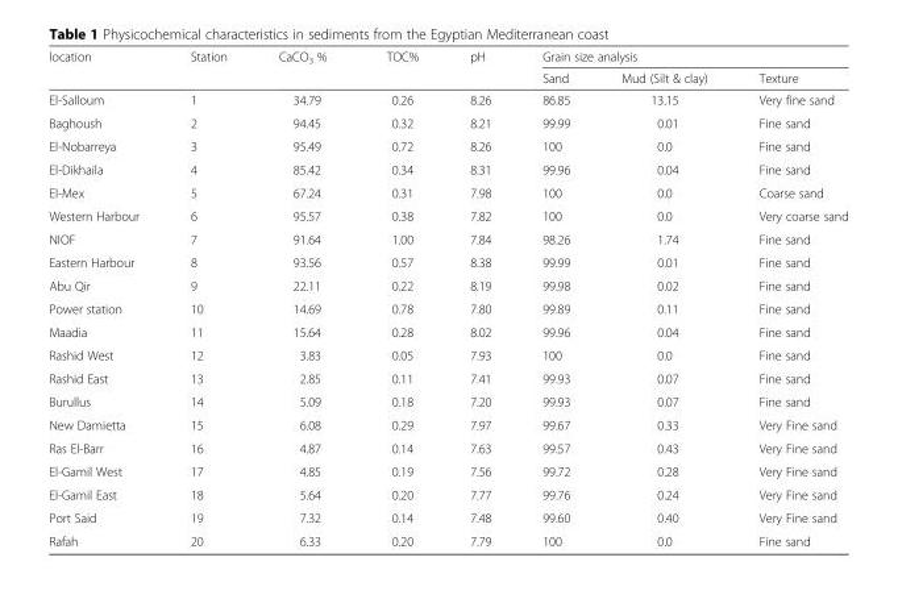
<table><thead><tr><td rowspan="2">location</td><td rowspan="2">Station</td><td rowspan="2">CaCO<sub>3</sub> %</td><td rowspan="2">TOC%</td><td rowspan="2">pH</td><td colspan="3">Grain size analysis</td></tr><tr><td>Sand</td><td>Mud (Silt &amp; clay)</td><td>Texture</td></tr></thead><tbody><tr><td>El-Salloum</td><td>1</td><td>34.79</td><td>0.26</td><td>8.26</td><td>86.85</td><td>13.15</td><td>Very fine sand</td></tr><tr><td>Baghoush</td><td>2</td><td>94.45</td><td>0.32</td><td>8.21</td><td>99.99</td><td>0.01</td><td>Fine sand</td></tr><tr><td>El-Nobarreya</td><td>3</td><td>95.49</td><td>0.72</td><td>8.26</td><td>100</td><td>0.0</td><td>Fine sand</td></tr><tr><td>El-Dikhaila</td><td>4</td><td>85.42</td><td>0.34</td><td>8.31</td><td>99.96</td><td>0.04</td><td>Fine sand</td></tr><tr><td>El-Mex</td><td>5</td><td>67.24</td><td>0.31</td><td>7.98</td><td>100</td><td>0.0</td><td>Coarse sand</td></tr><tr><td>Western Harbour</td><td>6</td><td>95.57</td><td>0.38</td><td>7.82</td><td>100</td><td>0.0</td><td>Very coarse sand</td></tr><tr><td>NIOF</td><td>7</td><td>91.64</td><td>1.00</td><td>7.84</td><td>98.26</td><td>1.74</td><td>Fine sand</td></tr><tr><td>Eastern Harbour</td><td>8</td><td>93.56</td><td>0.57</td><td>8.38</td><td>99.99</td><td>0.01</td><td>Fine sand</td></tr><tr><td>Abu Qir</td><td>9</td><td>22.11</td><td>0.22</td><td>8.19</td><td>99.98</td><td>0.02</td><td>Fine sand</td></tr><tr><td>Power station</td><td>10</td><td>14.69</td><td>0.78</td><td>7.80</td><td>99.89</td><td>0.11</td><td>Fine sand</td></tr><tr><td>Maadia</td><td>11</td><td>15.64</td><td>0.28</td><td>8.02</td><td>99.96</td><td>0.04</td><td>Fine sand</td></tr><tr><td>Rashid West</td><td>12</td><td>3.83</td><td>0.05</td><td>7.93</td><td>100</td><td>0.0</td><td>Fine sand</td></tr><tr><td>Rashid East</td><td>13</td><td>2.85</td><td>0.11</td><td>7.41</td><td>99.93</td><td>0.07</td><td>Fine sand</td></tr><tr><td>Burullus</td><td>14</td><td>5.09</td><td>0.18</td><td>7.20</td><td>99.93</td><td>0.07</td><td>Fine sand</td></tr><tr><td>New Damietta</td><td>15</td><td>6.08</td><td>0.29</td><td>7.97</td><td>99.67</td><td>0.33</td><td>Very Fine sand</td></tr><tr><td>Ras El-Barr</td><td>16</td><td>4.87</td><td>0.14</td><td>7.63</td><td>99.57</td><td>0.43</td><td>Very Fine sand</td></tr><tr><td>El-Gamil West</td><td>17</td><td>4.85</td><td>0.19</td><td>7.56</td><td>99.72</td><td>0.28</td><td>Very Fine sand</td></tr><tr><td>El-Gamil East</td><td>18</td><td>5.64</td><td>0.20</td><td>7.77</td><td>99.76</td><td>0.24</td><td>Very Fine sand</td></tr><tr><td>Port Said</td><td>19</td><td>7.32</td><td>0.14</td><td>7.48</td><td>99.60</td><td>0.40</td><td>Very Fine sand</td></tr><tr><td>Rafah</td><td>20</td><td>6.33</td><td>0.20</td><td>7.79</td><td>100</td><td>0.0</td><td>Fine sand</td></tr></tbody></table>